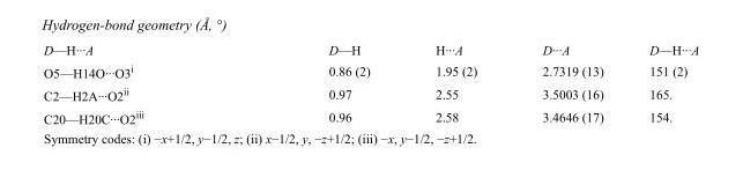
<table><tbody><tr><td>D—H···A</td><td>D—H</td><td>H···A</td><td>D···A</td><td>D—H···A</td></tr><tr><td>O5—H14O···O3<sup>i</sup></td><td>0.86 (2)</td><td>1.95 (2)</td><td>2.7319 (13)</td><td>151 (2)</td></tr><tr><td>C2—H2A···O2<sup>ii</sup></td><td>0.97</td><td>2.55</td><td>3.5003 (16)</td><td>165.</td></tr><tr><td>C20—H20C···O2<sup>iii</sup></td><td>0.96</td><td>2.58</td><td>3.4646 (17)</td><td>154.</td></tr></tbody></table>